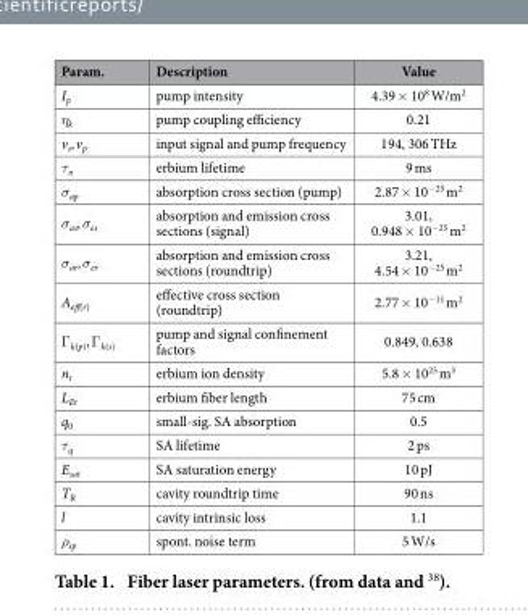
<table><thead><tr><td>Param.</td><td>Description</td><td>Value</td></tr></thead><tbody><tr><td>I<sub>p</sub></td><td>pump intensity</td><td>4.39 × 10<sup>8</sup> W/m<sup>2</sup></td></tr><tr><td>η<sub>k</sub></td><td>pump coupling efficiency</td><td>0.21</td></tr><tr><td>v<sub>s</sub>, v<sub>p</sub></td><td>input signal and pump frequency</td><td>194, 306 THz</td></tr><tr><td>τ<sub>n</sub></td><td>erbium lifetime</td><td>9 ms</td></tr><tr><td>σ<sub>ap</sub></td><td>absorption cross section (pump)</td><td>2.87 × 10<sup>−25</sup> m<sup>2</sup></td></tr><tr><td>σ<sub>as</sub>, σ<sub>es</sub></td><td>absorption and emission cross sections (signal)</td><td>3.01, 0.948 × 10<sup>−25</sup> m<sup>2</sup></td></tr><tr><td>σ<sub>ar</sub>, σ<sub>er</sub></td><td>absorption and emission cross sections (roundtrip)</td><td>3.21, 4.54 × 10<sup>−25</sup> m<sup>2</sup></td></tr><tr><td>A<sub>eff(r)</sub></td><td>effective cross section (roundtrip)</td><td>2.77 × 10<sup>−11</sup> m<sup>2</sup></td></tr><tr><td>Γ <sub>k(p)</sub>, Γ <sub>k(s)</sub></td><td>pump and signal confinement factors</td><td>0.849, 0.638</td></tr><tr><td>n<sub>t</sub></td><td>erbium ion density</td><td>5.8 × 10<sup>25</sup> m<sup>3</sup></td></tr><tr><td>L<sub>Er</sub></td><td>erbium fiber length</td><td>75 cm</td></tr><tr><td>q<sub>0</sub></td><td>small-sig. SA absorption</td><td>0.5</td></tr><tr><td>τ<sub>q</sub></td><td>SA lifetime</td><td>2 ps</td></tr><tr><td>E<sub>sat</sub></td><td>SA saturation energy</td><td>10 pJ</td></tr><tr><td>T<sub>R</sub></td><td>cavity roundtrip time</td><td>90 ns</td></tr><tr><td>l</td><td>cavity intrinsic loss</td><td>1.1</td></tr><tr><td>ρ<sub>sp</sub></td><td>spont. noise term</td><td>5 W/s</td></tr></tbody></table>